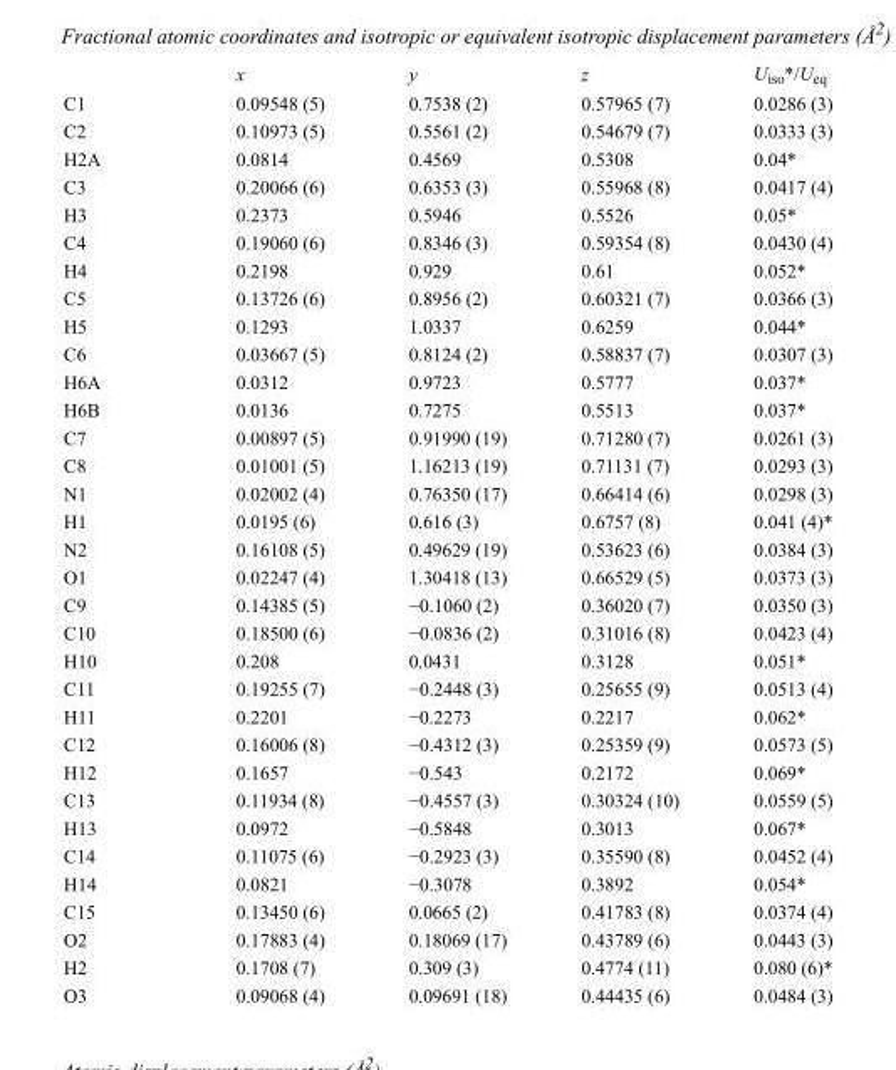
<table><thead><tr><td></td><td>x</td><td>y</td><td>z</td><td>U<sub>iso</sub>*/U<sub>eq</sub></td></tr></thead><tbody><tr><td>C1</td><td>0.09548 (5)</td><td>0.7538 (2)</td><td>0.57965 (7)</td><td>0.0286 (3)</td></tr><tr><td>C2</td><td>0.10973 (5)</td><td>0.5561 (2)</td><td>0.54679 (7)</td><td>0.0333 (3)</td></tr><tr><td>H2A</td><td>0.0814</td><td>0.4569</td><td>0.5308</td><td>0.04*</td></tr><tr><td>C3</td><td>0.20066 (6)</td><td>0.6353 (3)</td><td>0.55968 (8)</td><td>0.0417 (4)</td></tr><tr><td>H3</td><td>0.2373</td><td>0.5946</td><td>0.5526</td><td>0.05*</td></tr><tr><td>C4</td><td>0.19060 (6)</td><td>0.8346 (3)</td><td>0.59354 (8)</td><td>0.0430 (4)</td></tr><tr><td>H4</td><td>0.2198</td><td>0.929</td><td>0.61</td><td>0.052*</td></tr><tr><td>C5</td><td>0.13726 (6)</td><td>0.8956 (2)</td><td>0.60321 (7)</td><td>0.0366 (3)</td></tr><tr><td>H5</td><td>0.1293</td><td>1.0337</td><td>0.6259</td><td>0.044*</td></tr><tr><td>C6</td><td>0.03667 (5)</td><td>0.8124 (2)</td><td>0.58837 (7)</td><td>0.0307 (3)</td></tr><tr><td>H6A</td><td>0.0312</td><td>0.9723</td><td>0.5777</td><td>0.037*</td></tr><tr><td>H6B</td><td>0.0136</td><td>0.7275</td><td>0.5513</td><td>0.037*</td></tr><tr><td>C7</td><td>0.00897 (5)</td><td>0.91990 (19)</td><td>0.71280 (7)</td><td>0.0261 (3)</td></tr><tr><td>C8</td><td>0.01001 (5)</td><td>1.16213 (19)</td><td>0.71131 (7)</td><td>0.0293 (3)</td></tr><tr><td>N1</td><td>0.02002 (4)</td><td>0.76350 (17)</td><td>0.66414 (6)</td><td>0.0298 (3)</td></tr><tr><td>H1</td><td>0.0195 (6)</td><td>0.616 (3)</td><td>0.6757 (8)</td><td>0.041 (4)*</td></tr><tr><td>N2</td><td>0.16108 (5)</td><td>0.49629 (19)</td><td>0.53623 (6)</td><td>0.0384 (3)</td></tr><tr><td>O1</td><td>0.02247 (4)</td><td>1.30418 (13)</td><td>0.66529 (5)</td><td>0.0373 (3)</td></tr><tr><td>C9</td><td>0.14385 (5)</td><td>−0.1060 (2)</td><td>0.36020 (7)</td><td>0.0350 (3)</td></tr><tr><td>C10</td><td>0.18500 (6)</td><td>−0.0836 (2)</td><td>0.31016 (8)</td><td>0.0423 (4)</td></tr><tr><td>H10</td><td>0.208</td><td>0.0431</td><td>0.3128</td><td>0.051*</td></tr><tr><td>C11</td><td>0.19255 (7)</td><td>−0.2448 (3)</td><td>0.25655 (9)</td><td>0.0513 (4)</td></tr><tr><td>H11</td><td>0.2201</td><td>−0.2273</td><td>0.2217</td><td>0.062*</td></tr><tr><td>C12</td><td>0.16006 (8)</td><td>−0.4312 (3)</td><td>0.25359 (9)</td><td>0.0573 (5)</td></tr><tr><td>H12</td><td>0.1657</td><td>−0.543</td><td>0.2172</td><td>0.069*</td></tr><tr><td>C13</td><td>0.11934 (8)</td><td>−0.4557 (3)</td><td>0.30324 (10)</td><td>0.0559 (5)</td></tr><tr><td>H13</td><td>0.0972</td><td>−0.5848</td><td>0.3013</td><td>0.067*</td></tr><tr><td>C14</td><td>0.11075 (6)</td><td>−0.2923 (3)</td><td>0.35590 (8)</td><td>0.0452 (4)</td></tr><tr><td>H14</td><td>0.0821</td><td>−0.3078</td><td>0.3892</td><td>0.054*</td></tr><tr><td>C15</td><td>0.13450 (6)</td><td>0.0665 (2)</td><td>0.41783 (8)</td><td>0.0374 (4)</td></tr><tr><td>O2</td><td>0.17883 (4)</td><td>0.18069 (17)</td><td>0.43789 (6)</td><td>0.0443 (3)</td></tr><tr><td>H2</td><td>0.1708 (7)</td><td>0.309 (3)</td><td>0.4774 (11)</td><td>0.080 (6)*</td></tr><tr><td>O3</td><td>0.09068 (4)</td><td>0.09691 (18)</td><td>0.44435 (6)</td><td>0.0484 (3)</td></tr></tbody></table>